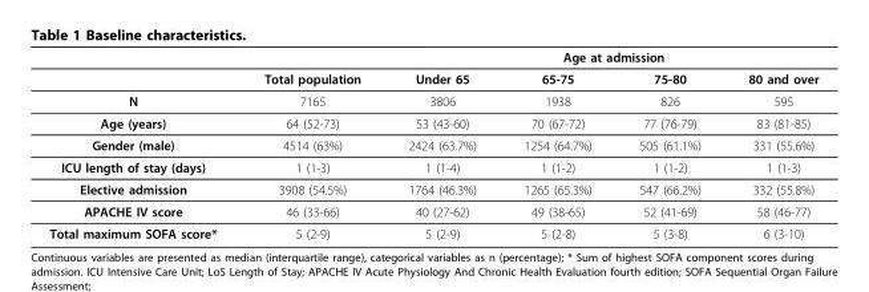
<table><thead><tr><td rowspan="2"></td><td rowspan="2">Total population</td><td colspan="4">Age at admission</td></tr><tr><td>Under 65</td><td>65-75</td><td>75-80</td><td>80 and over</td></tr></thead><tbody><tr><td>N</td><td>7165</td><td>3806</td><td>1938</td><td>826</td><td>595</td></tr><tr><td>Age (years)</td><td>64 (52-73)</td><td>53 (43-60)</td><td>70 (67-72)</td><td>77 (76-79)</td><td>83 (81-85)</td></tr><tr><td>Gender (male)</td><td>4514 (63%)</td><td>2424 (63.7%)</td><td>1254 (64.7%)</td><td>505 (61.1%)</td><td>331 (55.6%)</td></tr><tr><td>ICU length of stay (days)</td><td>1 (1-3)</td><td>1 (1-4)</td><td>1 (1-2)</td><td>1 (1-2)</td><td>1 (1-3)</td></tr><tr><td>Elective admission</td><td>3908 (54.5%)</td><td>1764 (46.3%)</td><td>1265 (65.3%)</td><td>547 (66.2%)</td><td>332 (55.8%)</td></tr><tr><td>APACHE IV score</td><td>46 (33-66)</td><td>40 (27-62)</td><td>49 (38-65)</td><td>52 (41-69)</td><td>58 (46-77)</td></tr><tr><td>Total maximum SOFA score*</td><td>5 (2-9)</td><td>5 (2-9)</td><td>5 (2-8)</td><td>5 (3-8)</td><td>6 (3-10)</td></tr></tbody></table>